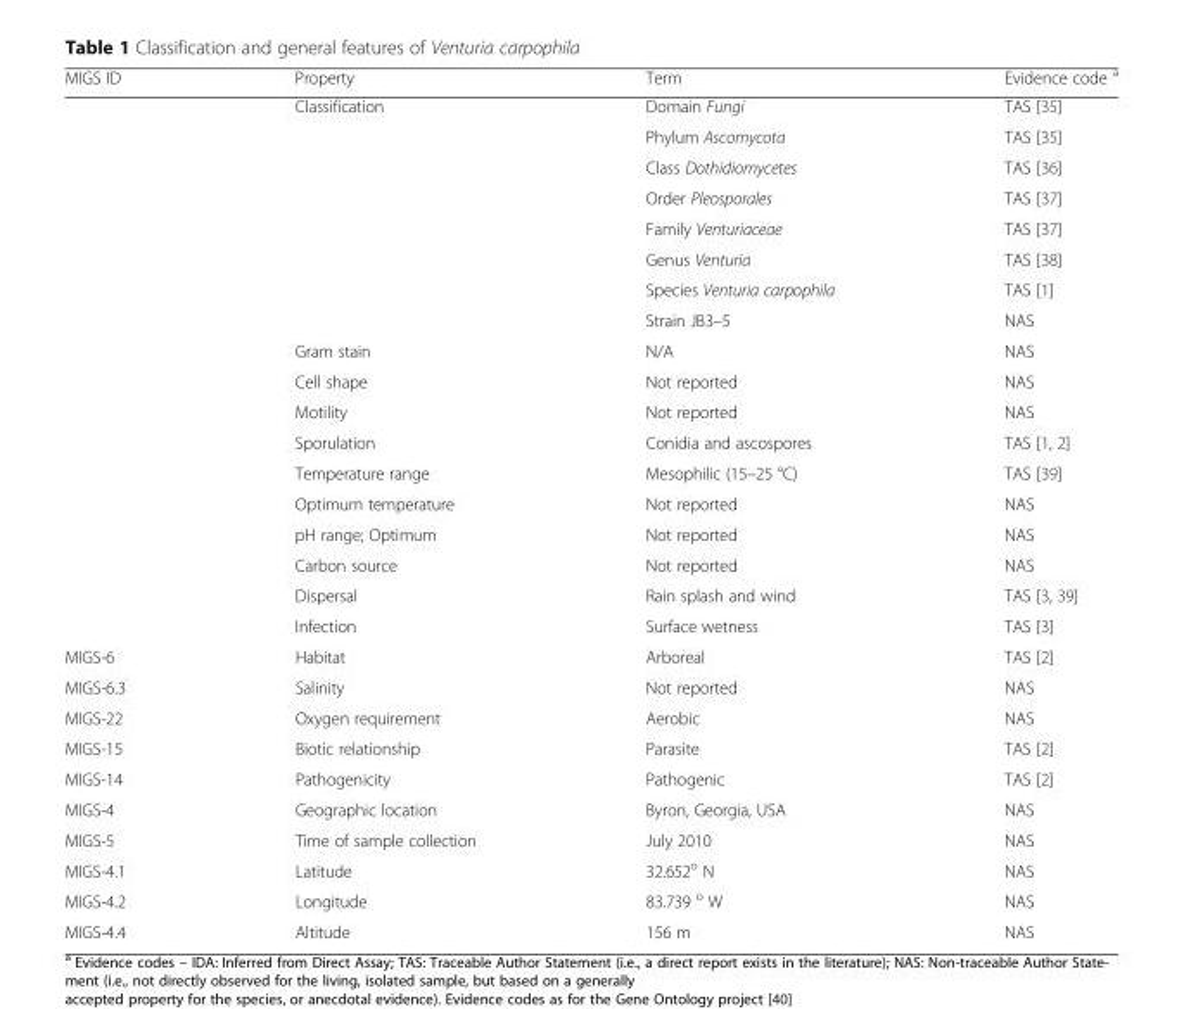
<table><thead><tr><td>MIGS ID</td><td>Property</td><td>Term</td><td>Evidence code <sup>a</sup></td></tr></thead><tbody><tr><td></td><td>Classification</td><td>Domain Fungi</td><td>TAS [35]</td></tr><tr><td></td><td></td><td>Phylum Ascomycota</td><td>TAS [35]</td></tr><tr><td></td><td></td><td>Class Dothidiomycetes</td><td>TAS [36]</td></tr><tr><td></td><td></td><td>Order Pleosporales</td><td>TAS [37]</td></tr><tr><td></td><td></td><td>Family Venturiaceae</td><td>TAS [37]</td></tr><tr><td></td><td></td><td>Genus Venturia</td><td>TAS [38]</td></tr><tr><td></td><td></td><td>Species Venturia carpophila</td><td>TAS [1]</td></tr><tr><td></td><td></td><td>Strain JB3–5</td><td>NAS</td></tr><tr><td></td><td>Gram stain</td><td>N/A</td><td>NAS</td></tr><tr><td></td><td>Cell shape</td><td>Not reported</td><td>NAS</td></tr><tr><td></td><td>Motility</td><td>Not reported</td><td>NAS</td></tr><tr><td></td><td>Sporulation</td><td>Conidia and ascospores</td><td>TAS [1, 2]</td></tr><tr><td></td><td>Temperature range</td><td>Mesophilic (15–25 °C)</td><td>TAS [39]</td></tr><tr><td></td><td>Optimum temperature</td><td>Not reported</td><td>NAS</td></tr><tr><td></td><td>pH range; Optimum</td><td>Not reported</td><td>NAS</td></tr><tr><td></td><td>Carbon source</td><td>Not reported</td><td>NAS</td></tr><tr><td></td><td>Dispersal</td><td>Rain splash and wind</td><td>TAS [3, 39]</td></tr><tr><td></td><td>Infection</td><td>Surface wetness</td><td>TAS [3]</td></tr><tr><td>MIGS-6</td><td>Habitat</td><td>Arboreal</td><td>TAS [2]</td></tr><tr><td>MIGS-6.3</td><td>Salinity</td><td>Not reported</td><td>NAS</td></tr><tr><td>MIGS-22</td><td>Oxygen requirement</td><td>Aerobic</td><td>NAS</td></tr><tr><td>MIGS-15</td><td>Biotic relationship</td><td>Parasite</td><td>TAS [2]</td></tr><tr><td>MIGS-14</td><td>Pathogenicity</td><td>Pathogenic</td><td>TAS [2]</td></tr><tr><td>MIGS-4</td><td>Geographic location</td><td>Byron, Georgia, USA</td><td>NAS</td></tr><tr><td>MIGS-5</td><td>Time of sample collection</td><td>July 2010</td><td>NAS</td></tr><tr><td>MIGS-4.1</td><td>Latitude</td><td>32.652<sup>o</sup> N</td><td>NAS</td></tr><tr><td>MIGS-4.2</td><td>Longitude</td><td>83.739 <sup>o</sup> W</td><td>NAS</td></tr><tr><td>MIGS-4.4</td><td>Altitude</td><td>156 m</td><td>NAS</td></tr></tbody></table>